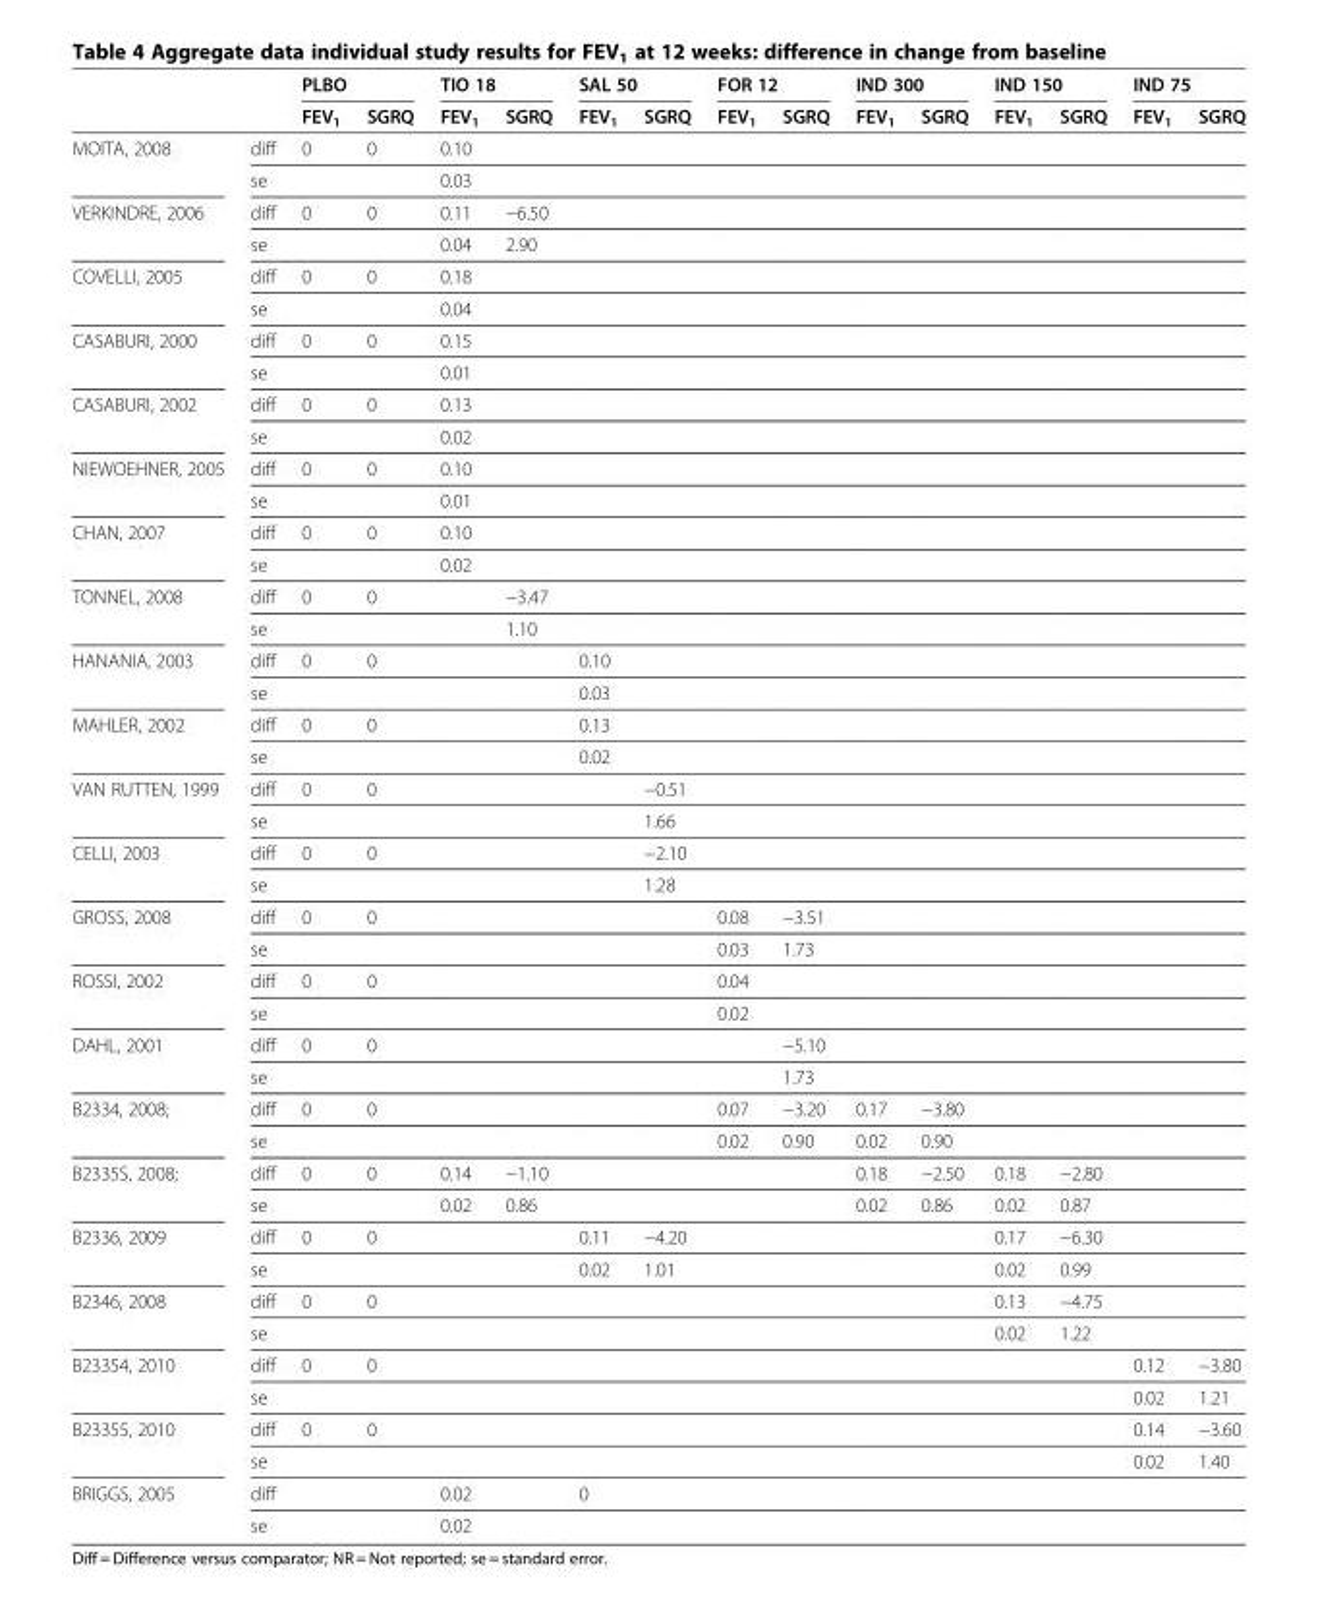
<table><thead><tr><td rowspan="2"></td><td rowspan="2"></td><td colspan="2">PLBO</td><td colspan="2">TIO 18</td><td colspan="2">SAL 50</td><td colspan="2">FOR 12</td><td colspan="2">IND 300</td><td colspan="2">IND 150</td><td colspan="2">IND 75</td></tr><tr><td>FEV<sub>1</sub></td><td>SGRQ</td><td>FEV<sub>1</sub></td><td>SGRQ</td><td>FEV<sub>1</sub></td><td>SGRQ</td><td>FEV<sub>1</sub></td><td>SGRQ</td><td>FEV<sub>1</sub></td><td>SGRQ</td><td>FEV<sub>1</sub></td><td>SGRQ</td><td>FEV<sub>1</sub></td><td>SGRQ</td></tr></thead><tbody><tr><td rowspan="2">MOITA, 2008</td><td>diff</td><td>0</td><td>0</td><td>0.10</td><td></td><td></td><td></td><td></td><td></td><td></td><td></td><td></td><td></td><td></td><td></td></tr><tr><td>se</td><td></td><td></td><td>0.03</td><td></td><td></td><td></td><td></td><td></td><td></td><td></td><td></td><td></td><td></td><td></td></tr><tr><td rowspan="2">VERKINDRE, 2006</td><td>diff</td><td>0</td><td>0</td><td>0.11</td><td>−6.50</td><td></td><td></td><td></td><td></td><td></td><td></td><td></td><td></td><td></td><td></td></tr><tr><td>se</td><td></td><td></td><td>0.04</td><td>2.90</td><td></td><td></td><td></td><td></td><td></td><td></td><td></td><td></td><td></td><td></td></tr><tr><td rowspan="2">COVELLI, 2005</td><td>diff</td><td>0</td><td>0</td><td>0.18</td><td></td><td></td><td></td><td></td><td></td><td></td><td></td><td></td><td></td><td></td><td></td></tr><tr><td>se</td><td></td><td></td><td>0.04</td><td></td><td></td><td></td><td></td><td></td><td></td><td></td><td></td><td></td><td></td><td></td></tr><tr><td rowspan="2">CASABURI, 2000</td><td>diff</td><td>0</td><td>0</td><td>0.15</td><td></td><td></td><td></td><td></td><td></td><td></td><td></td><td></td><td></td><td></td><td></td></tr><tr><td>se</td><td></td><td></td><td>0.01</td><td></td><td></td><td></td><td></td><td></td><td></td><td></td><td></td><td></td><td></td><td></td></tr><tr><td rowspan="2">CASABURI, 2002</td><td>diff</td><td>0</td><td>0</td><td>0.13</td><td></td><td></td><td></td><td></td><td></td><td></td><td></td><td></td><td></td><td></td><td></td></tr><tr><td>se</td><td></td><td></td><td>0.02</td><td></td><td></td><td></td><td></td><td></td><td></td><td></td><td></td><td></td><td></td><td></td></tr><tr><td rowspan="2">NIEWOEHNER, 2005</td><td>diff</td><td>0</td><td>0</td><td>0.10</td><td></td><td></td><td></td><td></td><td></td><td></td><td></td><td></td><td></td><td></td><td></td></tr><tr><td>se</td><td></td><td></td><td>0.01</td><td></td><td></td><td></td><td></td><td></td><td></td><td></td><td></td><td></td><td></td><td></td></tr><tr><td rowspan="2">CHAN, 2007</td><td>diff</td><td>0</td><td>0</td><td>0.10</td><td></td><td></td><td></td><td></td><td></td><td></td><td></td><td></td><td></td><td></td><td></td></tr><tr><td>se</td><td></td><td></td><td>0.02</td><td></td><td></td><td></td><td></td><td></td><td></td><td></td><td></td><td></td><td></td><td></td></tr><tr><td rowspan="2">TONNEL, 2008</td><td>diff</td><td>0</td><td>0</td><td></td><td>−3.47</td><td></td><td></td><td></td><td></td><td></td><td></td><td></td><td></td><td></td><td></td></tr><tr><td>se</td><td></td><td></td><td></td><td>1.10</td><td></td><td></td><td></td><td></td><td></td><td></td><td></td><td></td><td></td><td></td></tr><tr><td rowspan="2">HANANIA, 2003</td><td>diff</td><td>0</td><td>0</td><td></td><td></td><td>0.10</td><td></td><td></td><td></td><td></td><td></td><td></td><td></td><td></td><td></td></tr><tr><td>se</td><td></td><td></td><td></td><td></td><td>0.03</td><td></td><td></td><td></td><td></td><td></td><td></td><td></td><td></td><td></td></tr><tr><td rowspan="2">MAHLER, 2002</td><td>diff</td><td>0</td><td>0</td><td></td><td></td><td>0.13</td><td></td><td></td><td></td><td></td><td></td><td></td><td></td><td></td><td></td></tr><tr><td>se</td><td></td><td></td><td></td><td></td><td>0.02</td><td></td><td></td><td></td><td></td><td></td><td></td><td></td><td></td><td></td></tr><tr><td rowspan="2">VAN RUTTEN, 1999</td><td>diff</td><td>0</td><td>0</td><td></td><td></td><td></td><td>−0.51</td><td></td><td></td><td></td><td></td><td></td><td></td><td></td><td></td></tr><tr><td>se</td><td></td><td></td><td></td><td></td><td></td><td>1.66</td><td></td><td></td><td></td><td></td><td></td><td></td><td></td><td></td></tr><tr><td rowspan="2">CELLI, 2003</td><td>diff</td><td>0</td><td>0</td><td></td><td></td><td></td><td>−2.10</td><td></td><td></td><td></td><td></td><td></td><td></td><td></td><td></td></tr><tr><td>se</td><td></td><td></td><td></td><td></td><td></td><td>1.28</td><td></td><td></td><td></td><td></td><td></td><td></td><td></td><td></td></tr><tr><td rowspan="2">GROSS, 2008</td><td>diff</td><td>0</td><td>0</td><td></td><td></td><td></td><td></td><td>0.08</td><td>−3.51</td><td></td><td></td><td></td><td></td><td></td><td></td></tr><tr><td>se</td><td></td><td></td><td></td><td></td><td></td><td></td><td>0.03</td><td>1.73</td><td></td><td></td><td></td><td></td><td></td><td></td></tr><tr><td rowspan="2">ROSSI, 2002</td><td>diff</td><td>0</td><td>0</td><td></td><td></td><td></td><td></td><td>0.04</td><td></td><td></td><td></td><td></td><td></td><td></td><td></td></tr><tr><td>se</td><td></td><td></td><td></td><td></td><td></td><td></td><td>0.02</td><td></td><td></td><td></td><td></td><td></td><td></td><td></td></tr><tr><td rowspan="2">DAHL, 2001</td><td>diff</td><td>0</td><td>0</td><td></td><td></td><td></td><td></td><td></td><td>−5.10</td><td></td><td></td><td></td><td></td><td></td><td></td></tr><tr><td>se</td><td></td><td></td><td></td><td></td><td></td><td></td><td></td><td>1.73</td><td></td><td></td><td></td><td></td><td></td><td></td></tr><tr><td rowspan="2">B2334, 2008;</td><td>diff</td><td>0</td><td>0</td><td></td><td></td><td></td><td></td><td>0.07</td><td>−3.20</td><td>0.17</td><td>−3.80</td><td></td><td></td><td></td><td></td></tr><tr><td>se</td><td></td><td></td><td></td><td></td><td></td><td></td><td>0.02</td><td>0.90</td><td>0.02</td><td>0.90</td><td></td><td></td><td></td><td></td></tr><tr><td rowspan="2">B2335S, 2008;</td><td>diff</td><td>0</td><td>0</td><td>0.14</td><td>−1.10</td><td></td><td></td><td></td><td></td><td>0.18</td><td>−2.50</td><td>0.18</td><td>−2.80</td><td></td><td></td></tr><tr><td>se</td><td></td><td></td><td>0.02</td><td>0.86</td><td></td><td></td><td></td><td></td><td>0.02</td><td>0.86</td><td>0.02</td><td>0.87</td><td></td><td></td></tr><tr><td rowspan="2">B2336, 2009</td><td>diff</td><td>0</td><td>0</td><td></td><td></td><td>0.11</td><td>−4.20</td><td></td><td></td><td></td><td></td><td>0.17</td><td>−6.30</td><td></td><td></td></tr><tr><td>se</td><td></td><td></td><td></td><td></td><td>0.02</td><td>1.01</td><td></td><td></td><td></td><td></td><td>0.02</td><td>0.99</td><td></td><td></td></tr><tr><td rowspan="2">B2346, 2008</td><td>diff</td><td>0</td><td>0</td><td></td><td></td><td></td><td></td><td></td><td></td><td></td><td></td><td>0.13</td><td>−4.75</td><td></td><td></td></tr><tr><td>se</td><td></td><td></td><td></td><td></td><td></td><td></td><td></td><td></td><td></td><td></td><td>0.02</td><td>1.22</td><td></td><td></td></tr><tr><td rowspan="2">B23354, 2010</td><td>diff</td><td>0</td><td>0</td><td></td><td></td><td></td><td></td><td></td><td></td><td></td><td></td><td></td><td></td><td>0.12</td><td>−3.80</td></tr><tr><td>se</td><td></td><td></td><td></td><td></td><td></td><td></td><td></td><td></td><td></td><td></td><td></td><td></td><td>0.02</td><td>1.21</td></tr><tr><td rowspan="2">B23355, 2010</td><td>diff</td><td>0</td><td>0</td><td></td><td></td><td></td><td></td><td></td><td></td><td></td><td></td><td></td><td></td><td>0.14</td><td>−3.60</td></tr><tr><td>se</td><td></td><td></td><td></td><td></td><td></td><td></td><td></td><td></td><td></td><td></td><td></td><td></td><td>0.02</td><td>1.40</td></tr><tr><td rowspan="2">BRIGGS, 2005</td><td>diff</td><td></td><td></td><td>0.02</td><td></td><td>0</td><td></td><td></td><td></td><td></td><td></td><td></td><td></td><td></td><td></td></tr><tr><td>se</td><td></td><td></td><td>0.02</td><td></td><td></td><td></td><td></td><td></td><td></td><td></td><td></td><td></td><td></td><td></td></tr></tbody></table>